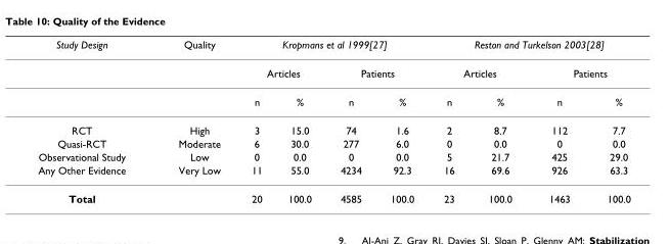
<table><thead><tr><td rowspan="3">Study Design</td><td rowspan="3">Quality</td><td colspan="4">Kropmans et al 1999[27]</td><td colspan="4">Reston and Turkelson 2003[28]</td></tr><tr><td colspan="2">Articles</td><td colspan="2">Patients</td><td colspan="2">Articles</td><td colspan="2">Patients</td></tr><tr><td>n</td><td>%</td><td>n</td><td>%</td><td>n</td><td>%</td><td>n</td><td>%</td></tr></thead><tbody><tr><td>RCT</td><td>High</td><td>3</td><td>15.0</td><td>74</td><td>1.6</td><td>2</td><td>8.7</td><td>112</td><td>7.7</td></tr><tr><td>Quasi-RCT</td><td>Moderate</td><td>6</td><td>30.0</td><td>277</td><td>6.0</td><td>0</td><td>0.0</td><td>0</td><td>0.0</td></tr><tr><td>Observational Study</td><td>Low</td><td>0</td><td>0.0</td><td>0</td><td>0.0</td><td>5</td><td>21.7</td><td>425</td><td>29.0</td></tr><tr><td>Any Other Evidence</td><td>Very Low</td><td>11</td><td>55.0</td><td>4234</td><td>92.3</td><td>16</td><td>69.6</td><td>926</td><td>63.3</td></tr><tr><td>Total</td><td></td><td>20</td><td>100.0</td><td>4585</td><td>100.0</td><td>23</td><td>100.0</td><td>1463</td><td>100.0</td></tr></tbody></table>